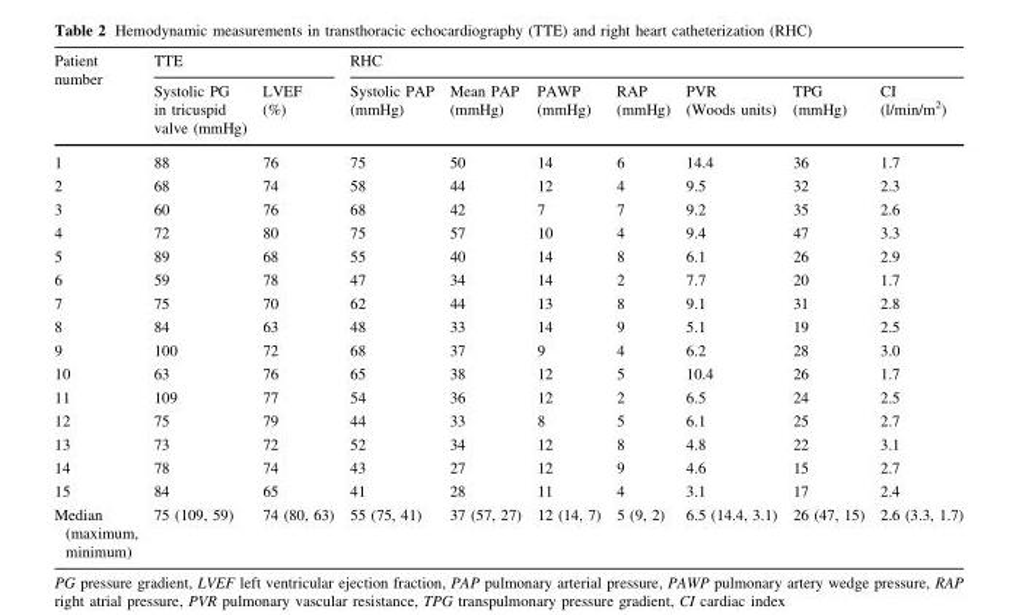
<table><thead><tr><td rowspan="2">Patient number</td><td colspan="2">TTE</td><td colspan="7">RHC</td></tr><tr><td>Systolic PG in tricuspid valve (mmHg)</td><td>LVEF (%)</td><td>Systolic PAP (mmHg)</td><td>Mean PAP (mmHg)</td><td>PAWP (mmHg)</td><td>RAP (mmHg)</td><td>PVR (Woods units)</td><td>TPG (mmHg)</td><td>CI (l/min/m<sup>2</sup>)</td></tr></thead><tbody><tr><td>1</td><td>88</td><td>76</td><td>75</td><td>50</td><td>14</td><td>6</td><td>14.4</td><td>36</td><td>1.7</td></tr><tr><td>2</td><td>68</td><td>74</td><td>58</td><td>44</td><td>12</td><td>4</td><td>9.5</td><td>32</td><td>2.3</td></tr><tr><td>3</td><td>60</td><td>76</td><td>68</td><td>42</td><td>7</td><td>7</td><td>9.2</td><td>35</td><td>2.6</td></tr><tr><td>4</td><td>72</td><td>80</td><td>75</td><td>57</td><td>10</td><td>4</td><td>9.4</td><td>47</td><td>3.3</td></tr><tr><td>5</td><td>89</td><td>68</td><td>55</td><td>40</td><td>14</td><td>8</td><td>6.1</td><td>26</td><td>2.9</td></tr><tr><td>6</td><td>59</td><td>78</td><td>47</td><td>34</td><td>14</td><td>2</td><td>7.7</td><td>20</td><td>1.7</td></tr><tr><td>7</td><td>75</td><td>70</td><td>62</td><td>44</td><td>13</td><td>8</td><td>9.1</td><td>31</td><td>2.8</td></tr><tr><td>8</td><td>84</td><td>63</td><td>48</td><td>33</td><td>14</td><td>9</td><td>5.1</td><td>19</td><td>2.5</td></tr><tr><td>9</td><td>100</td><td>72</td><td>68</td><td>37</td><td>9</td><td>4</td><td>6.2</td><td>28</td><td>3.0</td></tr><tr><td>10</td><td>63</td><td>76</td><td>65</td><td>38</td><td>12</td><td>5</td><td>10.4</td><td>26</td><td>1.7</td></tr><tr><td>11</td><td>109</td><td>77</td><td>54</td><td>36</td><td>12</td><td>2</td><td>6.5</td><td>24</td><td>2.5</td></tr><tr><td>12</td><td>75</td><td>79</td><td>44</td><td>33</td><td>8</td><td>5</td><td>6.1</td><td>25</td><td>2.7</td></tr><tr><td>13</td><td>73</td><td>72</td><td>52</td><td>34</td><td>12</td><td>8</td><td>4.8</td><td>22</td><td>3.1</td></tr><tr><td>14</td><td>78</td><td>74</td><td>43</td><td>27</td><td>12</td><td>9</td><td>4.6</td><td>15</td><td>2.7</td></tr><tr><td>15</td><td>84</td><td>65</td><td>41</td><td>28</td><td>11</td><td>4</td><td>3.1</td><td>17</td><td>2.4</td></tr><tr><td>Median (maximum, minimum)</td><td>75 (109, 59)</td><td>74 (80, 63)</td><td>55 (75, 41)</td><td>37 (57, 27)</td><td>12 (14, 7)</td><td>5 (9, 2)</td><td>6.5 (14.4, 3.1)</td><td>26 (47, 15)</td><td>2.6 (3.3, 1.7)</td></tr></tbody></table>